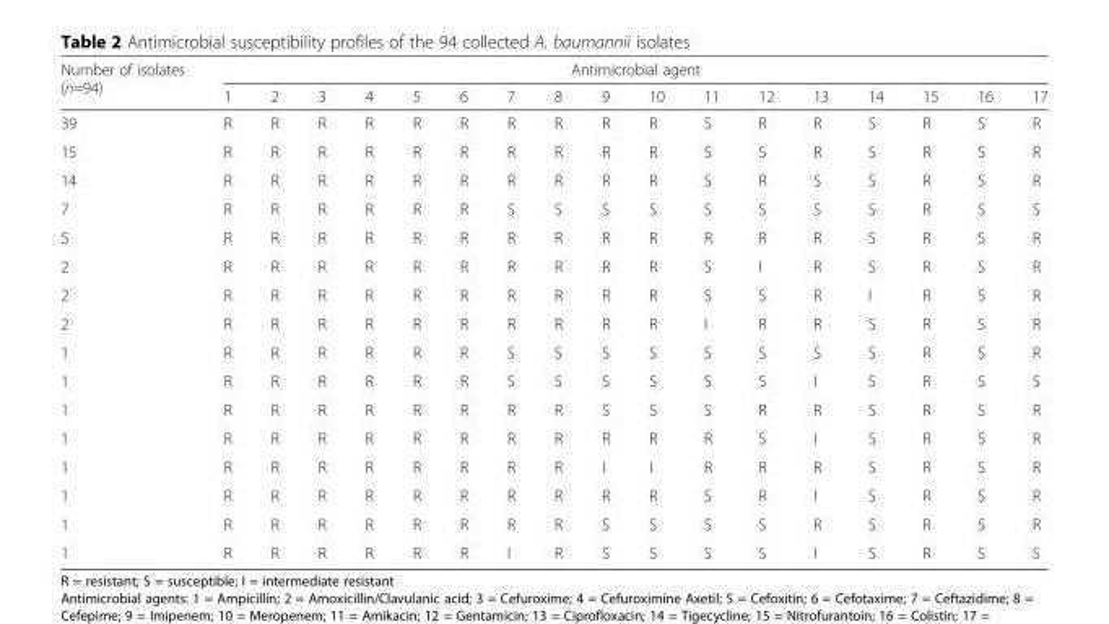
<table><thead><tr><td rowspan="2">Number of isolates (n=94)</td><td colspan="17">Antimicrobial agent</td></tr><tr><td>1</td><td>2</td><td>3</td><td>4</td><td>5</td><td>6</td><td>7</td><td>8</td><td>9</td><td>10</td><td>11</td><td>12</td><td>13</td><td>14</td><td>15</td><td>16</td><td>17</td></tr></thead><tbody><tr><td>39</td><td>R</td><td>R</td><td>R</td><td>R</td><td>R</td><td>R</td><td>R</td><td>R</td><td>R</td><td>R</td><td>S</td><td>R</td><td>R</td><td>S</td><td>R</td><td>S</td><td>R</td></tr><tr><td>15</td><td>R</td><td>R</td><td>R</td><td>R</td><td>R</td><td>R</td><td>R</td><td>R</td><td>R</td><td>R</td><td>S</td><td>S</td><td>R</td><td>S</td><td>R</td><td>S</td><td>R</td></tr><tr><td>14</td><td>R</td><td>R</td><td>R</td><td>R</td><td>R</td><td>R</td><td>R</td><td>R</td><td>R</td><td>R</td><td>S</td><td>R</td><td>S</td><td>S</td><td>R</td><td>S</td><td>R</td></tr><tr><td>7</td><td>R</td><td>R</td><td>R</td><td>R</td><td>R</td><td>R</td><td>S</td><td>S</td><td>S</td><td>S</td><td>S</td><td>S</td><td>S</td><td>S</td><td>R</td><td>S</td><td>S</td></tr><tr><td>5</td><td>R</td><td>R</td><td>R</td><td>R</td><td>R</td><td>R</td><td>R</td><td>R</td><td>R</td><td>R</td><td>R</td><td>R</td><td>R</td><td>S</td><td>R</td><td>S</td><td>R</td></tr><tr><td>2</td><td>R</td><td>R</td><td>R</td><td>R</td><td>R</td><td>R</td><td>R</td><td>R</td><td>R</td><td>R</td><td>S</td><td>I</td><td>R</td><td>S</td><td>R</td><td>S</td><td>R</td></tr><tr><td>2</td><td>R</td><td>R</td><td>R</td><td>R</td><td>R</td><td>R</td><td>R</td><td>R</td><td>R</td><td>R</td><td>S</td><td>S</td><td>R</td><td>I</td><td>R</td><td>S</td><td>R</td></tr><tr><td>2</td><td>R</td><td>R</td><td>R</td><td>R</td><td>R</td><td>R</td><td>R</td><td>R</td><td>R</td><td>R</td><td>I</td><td>R</td><td>R</td><td>S</td><td>R</td><td>S</td><td>R</td></tr><tr><td>1</td><td>R</td><td>R</td><td>R</td><td>R</td><td>R</td><td>R</td><td>S</td><td>S</td><td>S</td><td>S</td><td>S</td><td>S</td><td>S</td><td>S</td><td>R</td><td>S</td><td>R</td></tr><tr><td>1</td><td>R</td><td>R</td><td>R</td><td>R</td><td>R</td><td>R</td><td>S</td><td>S</td><td>S</td><td>S</td><td>S</td><td>S</td><td>I</td><td>S</td><td>R</td><td>S</td><td>S</td></tr><tr><td>1</td><td>R</td><td>R</td><td>R</td><td>R</td><td>R</td><td>R</td><td>R</td><td>R</td><td>S</td><td>S</td><td>S</td><td>R</td><td>R</td><td>S</td><td>R</td><td>S</td><td>R</td></tr><tr><td>1</td><td>R</td><td>R</td><td>R</td><td>R</td><td>R</td><td>R</td><td>R</td><td>R</td><td>R</td><td>R</td><td>R</td><td>S</td><td>I</td><td>S</td><td>R</td><td>S</td><td>R</td></tr><tr><td>1</td><td>R</td><td>R</td><td>R</td><td>R</td><td>R</td><td>R</td><td>R</td><td>R</td><td>I</td><td>I</td><td>R</td><td>R</td><td>R</td><td>S</td><td>R</td><td>S</td><td>R</td></tr><tr><td>1</td><td>R</td><td>R</td><td>R</td><td>R</td><td>R</td><td>R</td><td>R</td><td>R</td><td>R</td><td>R</td><td>S</td><td>R</td><td>I</td><td>S</td><td>R</td><td>S</td><td>R</td></tr><tr><td>1</td><td>R</td><td>R</td><td>R</td><td>R</td><td>R</td><td>R</td><td>R</td><td>R</td><td>S</td><td>S</td><td>S</td><td>S</td><td>R</td><td>S</td><td>R</td><td>S</td><td>R</td></tr><tr><td>1</td><td>R</td><td>R</td><td>R</td><td>R</td><td>R</td><td>R</td><td>I</td><td>R</td><td>S</td><td>S</td><td>S</td><td>S</td><td>I</td><td>S</td><td>R</td><td>S</td><td>S</td></tr></tbody></table>